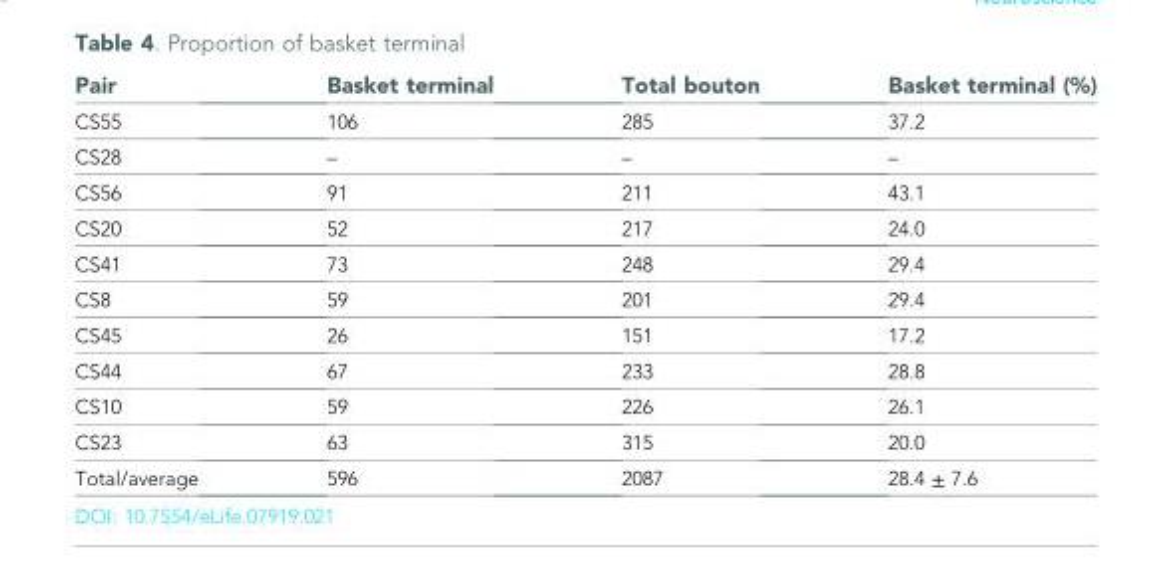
<table><thead><tr><td>Pair</td><td>Basket terminal</td><td>Total bouton</td><td>Basket terminal (%)</td></tr></thead><tbody><tr><td>CS55</td><td>106</td><td>285</td><td>37.2</td></tr><tr><td>CS28</td><td>–</td><td>–</td><td>–</td></tr><tr><td>CS56</td><td>91</td><td>211</td><td>43.1</td></tr><tr><td>CS20</td><td>52</td><td>217</td><td>24.0</td></tr><tr><td>CS41</td><td>73</td><td>248</td><td>29.4</td></tr><tr><td>CS8</td><td>59</td><td>201</td><td>29.4</td></tr><tr><td>CS45</td><td>26</td><td>151</td><td>17.2</td></tr><tr><td>CS44</td><td>67</td><td>233</td><td>28.8</td></tr><tr><td>CS10</td><td>59</td><td>226</td><td>26.1</td></tr><tr><td>CS23</td><td>63</td><td>315</td><td>20.0</td></tr><tr><td>Total/average</td><td>596</td><td>2087</td><td>28.4 ± 7.6</td></tr></tbody></table>